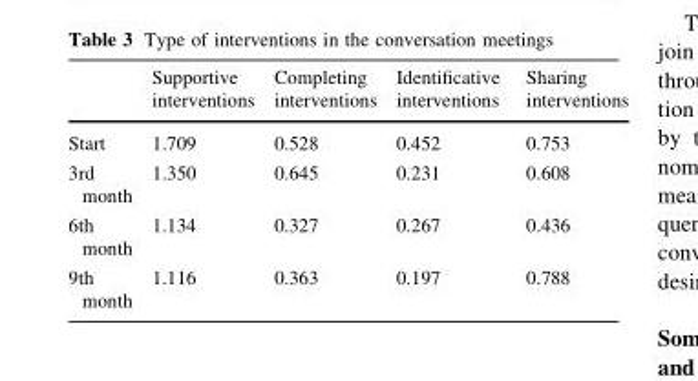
<table><thead><tr><td></td><td>Supportive interventions</td><td>Completing interventions</td><td>Identificative interventions</td><td>Sharing interventions</td></tr></thead><tbody><tr><td>Start</td><td>1.709</td><td>0.528</td><td>0.452</td><td>0.753</td></tr><tr><td>3rd month</td><td>1.350</td><td>0.645</td><td>0.231</td><td>0.608</td></tr><tr><td>6th month</td><td>1.134</td><td>0.327</td><td>0.267</td><td>0.436</td></tr><tr><td>9th month</td><td>1.116</td><td>0.363</td><td>0.197</td><td>0.788</td></tr></tbody></table>